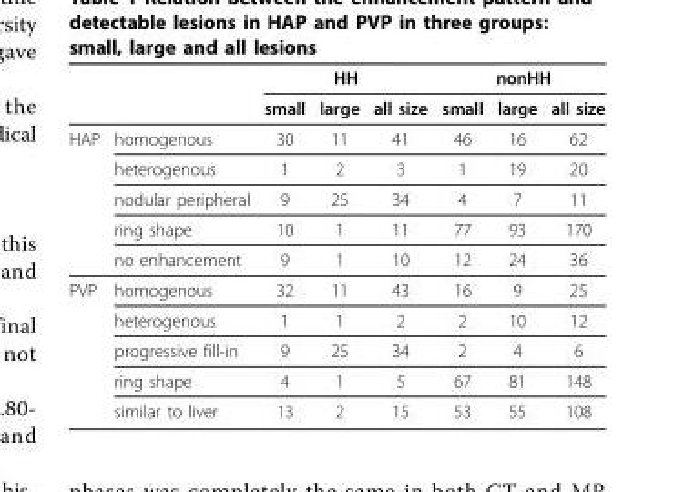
<table><thead><tr><td rowspan="2"></td><td rowspan="2"></td><td colspan="3">HH</td><td colspan="3">nonHH</td></tr><tr><td>small</td><td>large</td><td>all size</td><td>small</td><td>large</td><td>all size</td></tr></thead><tbody><tr><td rowspan="5">HAP</td><td>homogenous</td><td>30</td><td>11</td><td>41</td><td>46</td><td>16</td><td>62</td></tr><tr><td>heterogenous</td><td>1</td><td>2</td><td>3</td><td>1</td><td>19</td><td>20</td></tr><tr><td>nodular peripheral</td><td>9</td><td>25</td><td>34</td><td>4</td><td>7</td><td>11</td></tr><tr><td>ring shape</td><td>10</td><td>1</td><td>11</td><td>77</td><td>93</td><td>170</td></tr><tr><td>no enhancement</td><td>9</td><td>1</td><td>10</td><td>12</td><td>24</td><td>36</td></tr><tr><td rowspan="5">PVP</td><td>homogenous</td><td>32</td><td>11</td><td>43</td><td>16</td><td>9</td><td>25</td></tr><tr><td>heterogenous</td><td>1</td><td>1</td><td>2</td><td>2</td><td>10</td><td>12</td></tr><tr><td>progressive fill-in</td><td>9</td><td>25</td><td>34</td><td>2</td><td>4</td><td>6</td></tr><tr><td>ring shape</td><td>4</td><td>1</td><td>5</td><td>67</td><td>81</td><td>148</td></tr><tr><td>similar to liver</td><td>13</td><td>2</td><td>15</td><td>53</td><td>55</td><td>108</td></tr></tbody></table>